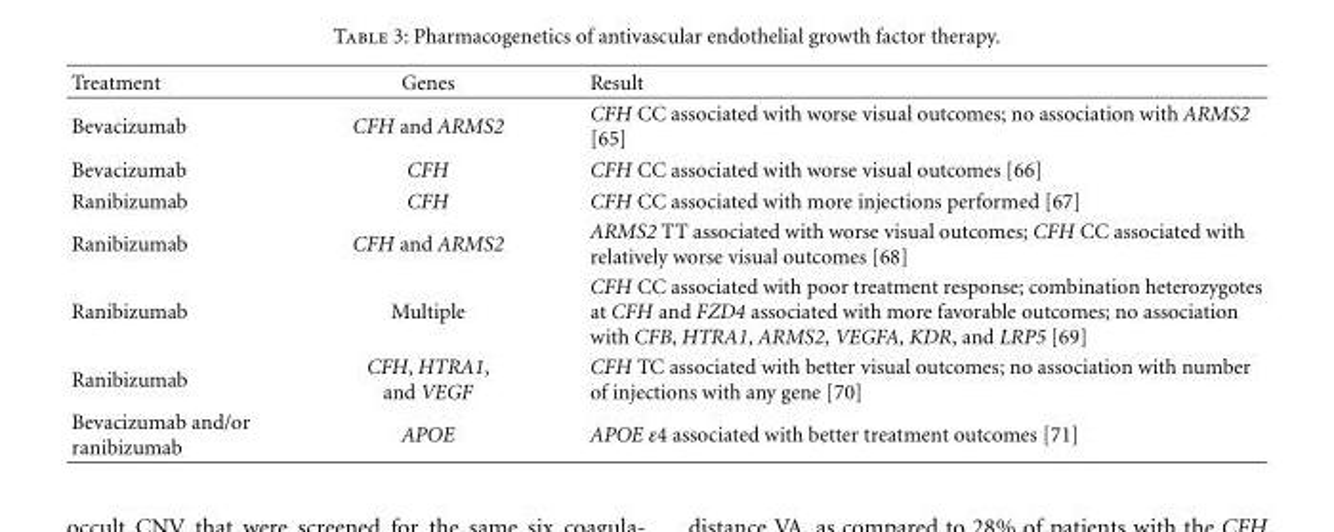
<table><thead><tr><td>Treatment</td><td>Genes</td><td>Result</td></tr></thead><tbody><tr><td>Bevacizumab</td><td>CFH and ARMS2</td><td>CFH CC associated with worse visual outcomes; no association with ARMS2 [65]</td></tr><tr><td>Bevacizumab</td><td>CFH</td><td>CFH CC associated with worse visual outcomes [66]</td></tr><tr><td>Ranibizumab</td><td>CFH</td><td>CFH CC associated with more injections performed [67]</td></tr><tr><td>Ranibizumab</td><td>CFH and ARMS2</td><td>ARMS2 TT associated with worse visual outcomes; CFH CC associated with relatively worse visual outcomes [68]</td></tr><tr><td>Ranibizumab</td><td>Multiple</td><td>CFH CC associated with poor treatment response; combination heterozygotes at CFH and FZD4 associated with more favorable outcomes; no association with CFB, HTRA1, ARMS2, VEGFA, KDR, and LRP5 [69]</td></tr><tr><td>Ranibizumab</td><td>CFH, HTRA1, and VEGF</td><td>CFH TC associated with better visual outcomes; no association with number of injections with any gene [70]</td></tr><tr><td>Bevacizumab and/or ranibizumab</td><td>APOE</td><td>APOE ε4 associated with better treatment outcomes [71]</td></tr></tbody></table>